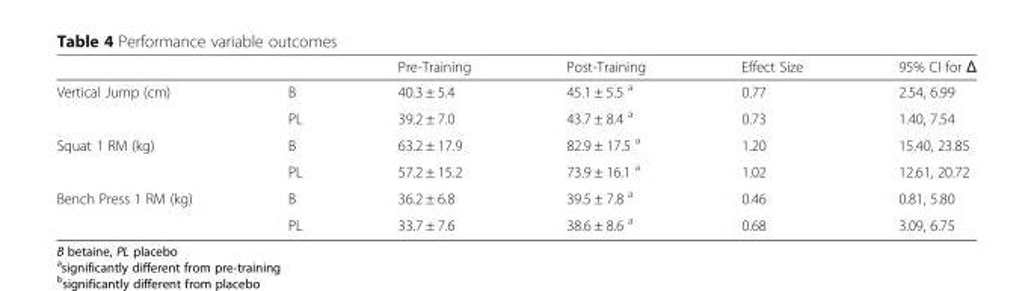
<table><thead><tr><td></td><td></td><td>Pre-Training</td><td>Post-Training</td><td>Effect Size</td><td>95% CI for Δ</td></tr></thead><tbody><tr><td rowspan="2">Vertical Jump (cm)</td><td>B</td><td>40.3 ± 5.4</td><td>45.1 ± 5.5 <sup>a</sup></td><td>0.77</td><td>2.54, 6.99</td></tr><tr><td>PL</td><td>39.2 ± 7.0</td><td>43.7 ± 8.4 <sup>a</sup></td><td>0.73</td><td>1.40, 7.54</td></tr><tr><td rowspan="2">Squat 1 RM (kg)</td><td>B</td><td>63.2 ± 17.9</td><td>82.9 ± 17.5 <sup>a</sup></td><td>1.20</td><td>15.40, 23.85</td></tr><tr><td>PL</td><td>57.2 ± 15.2</td><td>73.9 ± 16.1 <sup>a</sup></td><td>1.02</td><td>12.61, 20.72</td></tr><tr><td rowspan="2">Bench Press 1 RM (kg)</td><td>B</td><td>36.2 ± 6.8</td><td>39.5 ± 7.8 <sup>a</sup></td><td>0.46</td><td>0.81, 5.80</td></tr><tr><td>PL</td><td>33.7 ± 7.6</td><td>38.6 ± 8.6 <sup>a</sup></td><td>0.68</td><td>3.09, 6.75</td></tr></tbody></table>